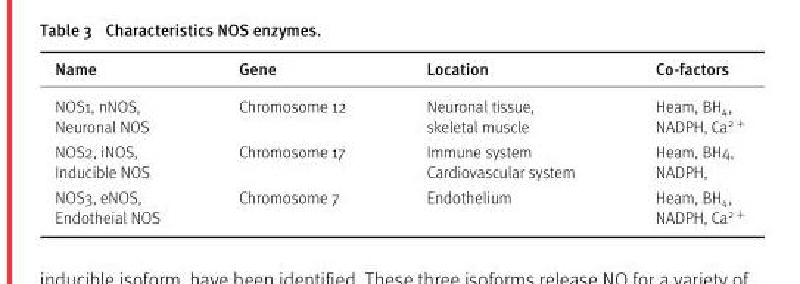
<table><thead><tr><td>Name</td><td>Gene</td><td>Location</td><td>Co-factors</td></tr></thead><tbody><tr><td>NOS1, nNOS, Neuronal NOS</td><td>Chromosome 12</td><td>Neuronal tissue, skeletal muscle</td><td>Heam, BH<sub>4</sub>, NADPH, Ca<sup>2 +</sup></td></tr><tr><td>NOS2, iNOS, Inducible NOS</td><td>Chromosome 17</td><td>Immune system Cardiovascular system</td><td>Heam, BH4, NADPH,</td></tr><tr><td>NOS3, eNOS, Endotheial NOS</td><td>Chromosome 7</td><td>Endothelium</td><td>Heam, BH<sub>4</sub>, NADPH, Ca<sup>2 +</sup></td></tr></tbody></table>